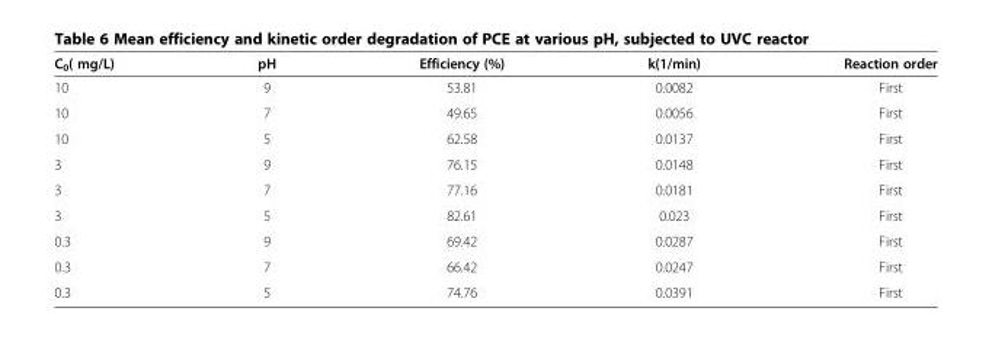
<table><thead><tr><td>C<sub>0</sub>( mg/L)</td><td>pH</td><td>Efficiency (%)</td><td>k(1/min)</td><td>Reaction order</td></tr></thead><tbody><tr><td>10</td><td>9</td><td>53.81</td><td>0.0082</td><td>First</td></tr><tr><td>10</td><td>7</td><td>49.65</td><td>0.0056</td><td>First</td></tr><tr><td>10</td><td>5</td><td>62.58</td><td>0.0137</td><td>First</td></tr><tr><td>3</td><td>9</td><td>76.15</td><td>0.0148</td><td>First</td></tr><tr><td>3</td><td>7</td><td>77.16</td><td>0.0181</td><td>First</td></tr><tr><td>3</td><td>5</td><td>82.61</td><td>0.023</td><td>First</td></tr><tr><td>0.3</td><td>9</td><td>69.42</td><td>0.0287</td><td>First</td></tr><tr><td>0.3</td><td>7</td><td>66.42</td><td>0.0247</td><td>First</td></tr><tr><td>0.3</td><td>5</td><td>74.76</td><td>0.0391</td><td>First</td></tr></tbody></table>